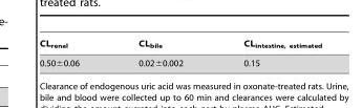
<table><thead><tr><td>CL<sub>renal</sub></td><td>CL<sub>bile</sub></td><td>CL<sub>intestine, estimated</sub></td></tr></thead><tbody><tr><td>0.50±0.06</td><td>0.02±0.002</td><td>0.15</td></tr></tbody></table>